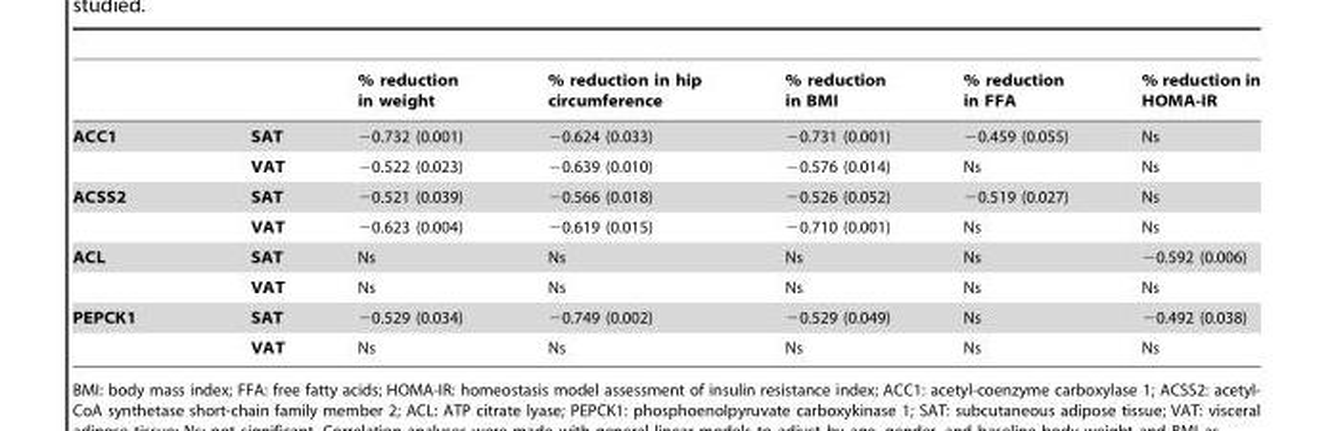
<table><thead><tr><td></td><td></td><td>% reduction in weight</td><td>% reduction in hip circumference</td><td>% reduction in BMI</td><td>% reduction in FFA</td><td>% reduction in HOMA-IR</td></tr></thead><tbody><tr><td rowspan="2">ACC1</td><td>SAT</td><td>−0.732 (0.001)</td><td>−0.624 (0.033)</td><td>−0.731 (0.001)</td><td>−0.459 (0.055)</td><td>Ns</td></tr><tr><td>VAT</td><td>−0.522 (0.023)</td><td>−0.639 (0.010)</td><td>−0.576 (0.014)</td><td>Ns</td><td>Ns</td></tr><tr><td rowspan="2">ACSS2</td><td>SAT</td><td>−0.521 (0.039)</td><td>−0.566 (0.018)</td><td>−0.526 (0.052)</td><td>−0.519 (0.027)</td><td>Ns</td></tr><tr><td>VAT</td><td>−0.623 (0.004)</td><td>−0.619 (0.015)</td><td>−0.710 (0.001)</td><td>Ns</td><td>Ns</td></tr><tr><td rowspan="2">ACL</td><td>SAT</td><td>Ns</td><td>Ns</td><td>Ns</td><td>Ns</td><td>−0.592 (0.006)</td></tr><tr><td>VAT</td><td>Ns</td><td>Ns</td><td>Ns</td><td>Ns</td><td>Ns</td></tr><tr><td rowspan="2">PEPCK1</td><td>SAT</td><td>−0.529 (0.034)</td><td>−0.749 (0.002)</td><td>−0.529 (0.049)</td><td>Ns</td><td>−0.492 (0.038)</td></tr><tr><td>VAT</td><td>Ns</td><td>Ns</td><td>Ns</td><td>Ns</td><td>Ns</td></tr></tbody></table>